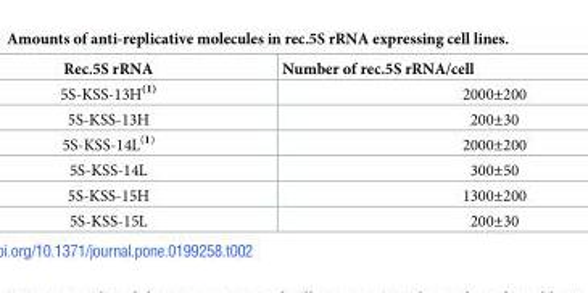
<table><thead><tr><td>Rec.5S rRNA</td><td>Number of rec.5S rRNA/cell</td></tr></thead><tbody><tr><td>5S-KSS-13H<sup>(1)</sup></td><td>2000±200</td></tr><tr><td>5S-KSS-13H</td><td>200±30</td></tr><tr><td>5S-KSS-14L<sup>(1)</sup></td><td>2000±200</td></tr><tr><td>5S-KSS-14L</td><td>300±50</td></tr><tr><td>5S-KSS-15H</td><td>1300±200</td></tr><tr><td>5S-KSS-15L</td><td>200±30</td></tr></tbody></table>